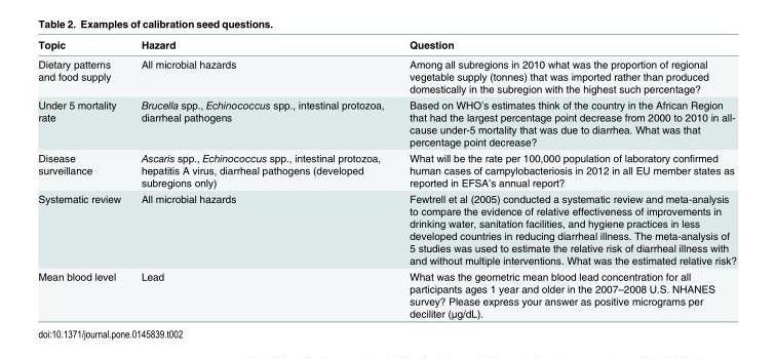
<table><thead><tr><td>Topic</td><td>Hazard</td><td>Question</td></tr></thead><tbody><tr><td>Dietary patterns and food supply</td><td>All microbial hazards</td><td>Among all subregions in 2010 what was the proportion of regional vegetable supply (tonnes) that was imported rather than produced domestically in the subregion with the highest such percentage?</td></tr><tr><td>Under 5 mortality rate</td><td>Brucella spp., Echinococcus spp., intestinal protozoa, diarrheal pathogens</td><td>Based on WHO’s estimates think of the country in the African Region that had the largest percentage point decrease from 2000 to 2010 in all- cause under-5 mortality that was due to diarrhea. What was that percentage point decrease?</td></tr><tr><td>Disease surveillance</td><td>Ascaris spp., Echinococcus spp., intestinal protozoa, hepatitis A virus, diarrheal pathogens (developed subregions only)</td><td>What will be the rate per 100,000 population of laboratory confirmed human cases of campylobacteriosis in 2012 in all EU member states as reported in EFSA’s annual report?</td></tr><tr><td>Systematic review</td><td>All microbial hazards</td><td>Fewtrell et al (2005) conducted a systematic review and meta-analysis to compare the evidence of relative effectiveness of improvements in drinking water, sanitation facilities, and hygiene practices in less developed countries in reducing diarrheal illness. The meta-analysis of 5 studies was used to estimate the relative risk of diarrheal illness with and without multiple interventions. What was the estimated relative risk?</td></tr><tr><td>Mean blood level</td><td>Lead</td><td>What was the geometric mean blood lead concentration for all participants ages 1 year and older in the 2007–2008 U.S. NHANES survey? Please express your answer as positive micrograms per deciliter (μg/dL).</td></tr></tbody></table>